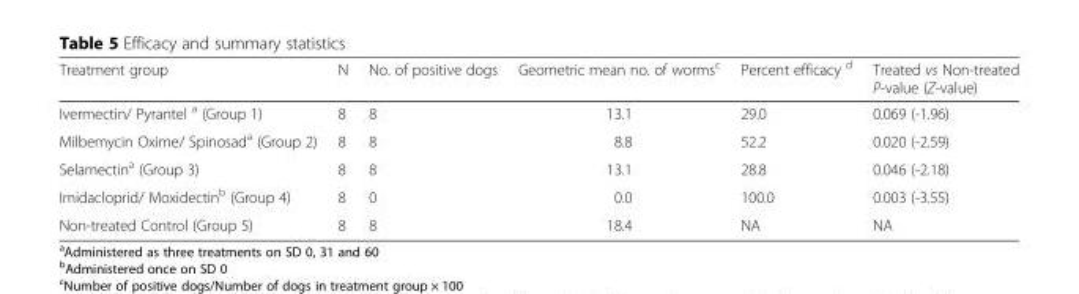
<table><thead><tr><td>Treatment group</td><td>N</td><td>No. of positive dogs</td><td>Geometric mean no. of worms<sup>c</sup></td><td>Percent efficacy <sup>d</sup></td><td>Treated vs Non-treated P-value (Z-value)</td></tr></thead><tbody><tr><td>Ivermectin/ Pyrantel <sup>a</sup> (Group 1)</td><td>8</td><td>8</td><td>13.1</td><td>29.0</td><td>0.069 (-1.96)</td></tr><tr><td>Milbemycin Oxime/ Spinosad<sup>a</sup> (Group 2)</td><td>8</td><td>8</td><td>8.8</td><td>52.2</td><td>0.020 (-2.59)</td></tr><tr><td>Selamectin<sup>a</sup> (Group 3)</td><td>8</td><td>8</td><td>13.1</td><td>28.8</td><td>0.046 (-2.18)</td></tr><tr><td>Imidacloprid/ Moxidectin<sup>b</sup> (Group 4)</td><td>8</td><td>0</td><td>0.0</td><td>100.0</td><td>0.003 (-3.55)</td></tr><tr><td>Non-treated Control (Group 5)</td><td>8</td><td>8</td><td>18.4</td><td>NA</td><td>NA</td></tr></tbody></table>